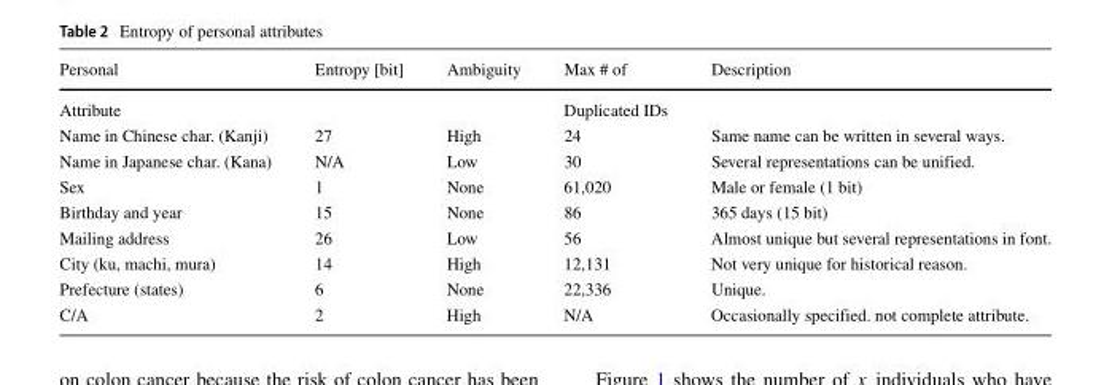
<table><thead><tr><td>Personal</td><td>Entropy [bit]</td><td>Ambiguity</td><td>Max # of</td><td>Description</td></tr></thead><tbody><tr><td>Attribute</td><td></td><td></td><td>Duplicated IDs</td><td></td></tr><tr><td>Name in Chinese char. (Kanji)</td><td>27</td><td>High</td><td>24</td><td>Same name can be written in several ways.</td></tr><tr><td>Name in Japanese char. (Kana)</td><td>N/A</td><td>Low</td><td>30</td><td>Several representations can be unified.</td></tr><tr><td>Sex</td><td>1</td><td>None</td><td>61,020</td><td>Male or female (1 bit)</td></tr><tr><td>Birthday and year</td><td>15</td><td>None</td><td>86</td><td>365 days (15 bit)</td></tr><tr><td>Mailing address</td><td>26</td><td>Low</td><td>56</td><td>Almost unique but several representations in font.</td></tr><tr><td>City (ku, machi, mura)</td><td>14</td><td>High</td><td>12,131</td><td>Not very unique for historical reason.</td></tr><tr><td>Prefecture (states)</td><td>6</td><td>None</td><td>22,336</td><td>Unique.</td></tr><tr><td>C/A</td><td>2</td><td>High</td><td>N/A</td><td>Occasionally specified. not complete attribute.</td></tr></tbody></table>